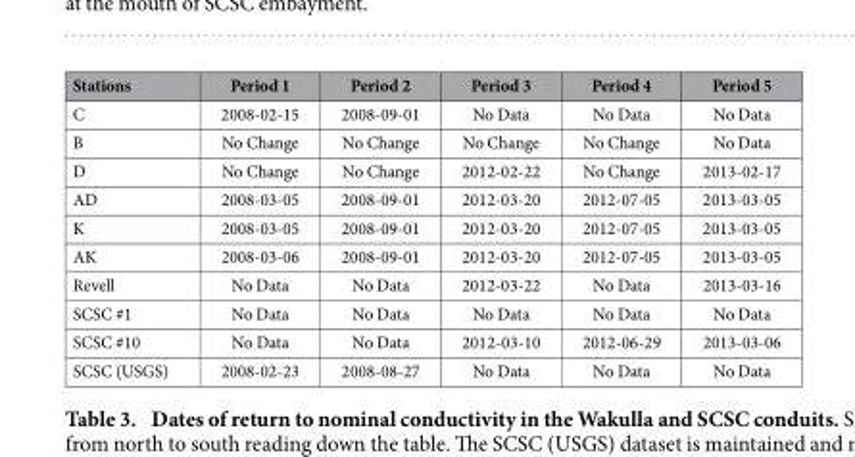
<table><thead><tr><td>Stations</td><td>Period 1</td><td>Period 2</td><td>Period 3</td><td>Period 4</td><td>Period 5</td></tr></thead><tbody><tr><td>C</td><td>2008-02-15</td><td>2008-09-01</td><td>No Data</td><td>No Data</td><td>No Data</td></tr><tr><td>B</td><td>No Change</td><td>No Change</td><td>No Change</td><td>No Change</td><td>No Data</td></tr><tr><td>D</td><td>No Change</td><td>No Change</td><td>2012-02-22</td><td>No Change</td><td>2013-02-17</td></tr><tr><td>AD</td><td>2008-03-05</td><td>2008-09-01</td><td>2012-03-20</td><td>2012-07-05</td><td>2013-03-05</td></tr><tr><td>K</td><td>2008-03-05</td><td>2008-09-01</td><td>2012-03-20</td><td>2012-07-05</td><td>2013-03-05</td></tr><tr><td>AK</td><td>2008-03-06</td><td>2008-09-01</td><td>2012-03-20</td><td>2012-07-05</td><td>2013-03-05</td></tr><tr><td>Revell</td><td>No Data</td><td>No Data</td><td>2012-03-22</td><td>No Data</td><td>2013-03-16</td></tr><tr><td>SCSC #1</td><td>No Data</td><td>No Data</td><td>No Data</td><td>No Data</td><td>No Data</td></tr><tr><td>SCSC #10</td><td>No Data</td><td>No Data</td><td>2012-03-10</td><td>2012-06-29</td><td>2013-03-06</td></tr><tr><td>SCSC (USGS)</td><td>2008-02-23</td><td>2008-08-27</td><td>No Data</td><td>No Data</td><td>No Data</td></tr></tbody></table>